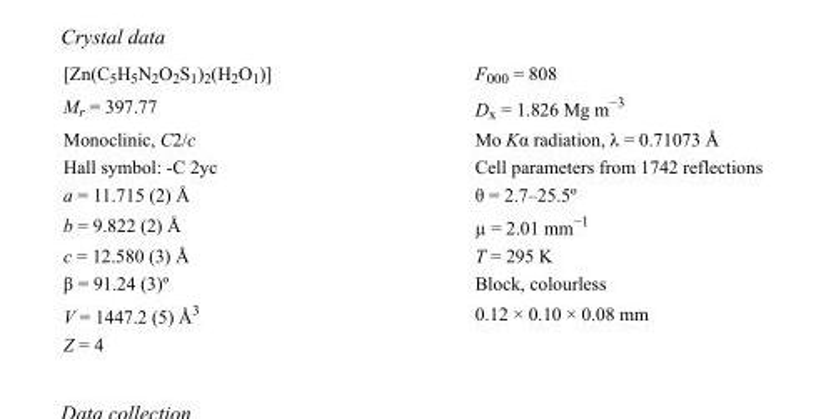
<table><tbody><tr><td>[Zn(C5H5N2O2S1)2(H2O1)]</td><td>F000 = 808</td></tr><tr><td>M<sub>r</sub> = 397.77</td><td>D<sub>x</sub> = 1.826 Mg m<sup>−3</sup></td></tr><tr><td>Monoclinic, C2/c</td><td>Mo Kα radiation, λ = 0.71073 Å</td></tr><tr><td>Hall symbol: -C 2yc</td><td>Cell parameters from 1742 reflections</td></tr><tr><td>a = 11.715 (2) Å</td><td>θ = 2.7–25.5º</td></tr><tr><td>b = 9.822 (2) Å</td><td>µ = 2.01 mm<sup>−1</sup></td></tr><tr><td>c = 12.580 (3) Å</td><td>T = 295 K</td></tr><tr><td>β = 91.24 (3)º</td><td>Block, colourless</td></tr><tr><td>V = 1447.2 (5) Å<sup>3</sup></td><td>0.12 × 0.10 × 0.08 mm</td></tr><tr><td>Z = 4</td><td></td></tr></tbody></table>